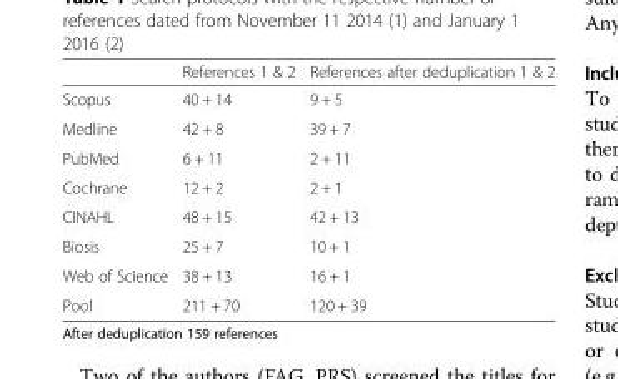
<table><thead><tr><td></td><td>References 1 &amp; 2</td><td>References after deduplication 1 &amp; 2</td></tr></thead><tbody><tr><td>Scopus</td><td>40 + 14</td><td>9 + 5</td></tr><tr><td>Medline</td><td>42 + 8</td><td>39 + 7</td></tr><tr><td>PubMed</td><td>6 + 11</td><td>2 + 11</td></tr><tr><td>Cochrane</td><td>12 + 2</td><td>2 + 1</td></tr><tr><td>CINAHL</td><td>48 + 15</td><td>42 + 13</td></tr><tr><td>Biosis</td><td>25 + 7</td><td>10 + 1</td></tr><tr><td>Web of Science</td><td>38 + 13</td><td>16 + 1</td></tr><tr><td>Pool</td><td>211 + 70</td><td>120 + 39</td></tr></tbody></table>